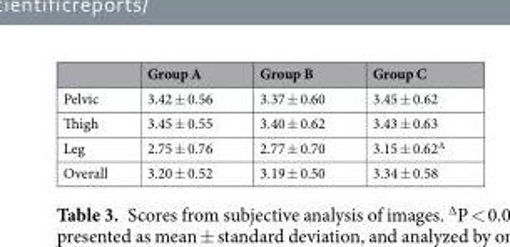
<table><thead><tr><td></td><td>Group A</td><td>Group B</td><td>Group C</td></tr></thead><tbody><tr><td>Pelvic</td><td>3.42 ± 0.56</td><td>3.37 ± 0.60</td><td>3.45 ± 0.62</td></tr><tr><td>Thigh</td><td>3.45 ± 0.55</td><td>3.40 ± 0.62</td><td>3.43 ± 0.63</td></tr><tr><td>Leg</td><td>2.75 ± 0.76</td><td>2.77 ± 0.70</td><td>3.15 ± 0.62<sup>∆</sup></td></tr><tr><td>Overall</td><td>3.20 ± 0.52</td><td>3.19 ± 0.50</td><td>3.34 ± 0.58</td></tr></tbody></table>